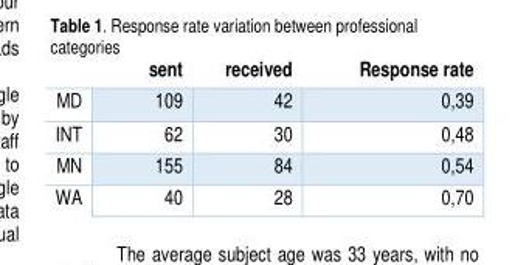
<table><thead><tr><td></td><td>sent</td><td>received</td><td>Response rate</td></tr></thead><tbody><tr><td>MD</td><td>109</td><td>42</td><td>0,39</td></tr><tr><td>INT</td><td>62</td><td>30</td><td>0,48</td></tr><tr><td>MN</td><td>155</td><td>84</td><td>0,54</td></tr><tr><td>WA</td><td>40</td><td>28</td><td>0,70</td></tr></tbody></table>